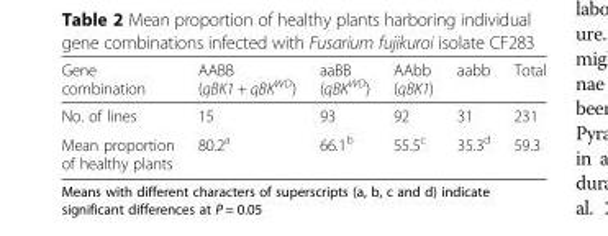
<table><thead><tr><td>Gene combination</td><td>AABB (qBK1 + qBK<sup>WD</sup>)</td><td>aaBB (qBK<sup>WD</sup>)</td><td>AAbb (qBK1)</td><td>aabb</td><td>Total</td></tr></thead><tbody><tr><td>No. of lines</td><td>15</td><td>93</td><td>92</td><td>31</td><td>231</td></tr><tr><td>Mean proportion of healthy plants</td><td>80.2<sup>a</sup></td><td>66.1<sup>b</sup></td><td>55.5<sup>c</sup></td><td>35.3<sup>d</sup></td><td>59.3</td></tr></tbody></table>